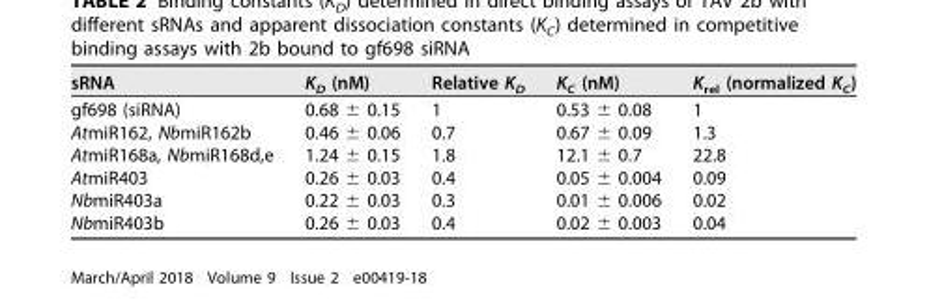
<table><thead><tr><td>sRNA</td><td>K<sub>D</sub> (nM)</td><td>Relative K<sub>D</sub></td><td>K<sub>C</sub> (nM)</td><td>K<sub>rel</sub> (normalized K<sub>C</sub>)</td></tr></thead><tbody><tr><td>gf698 (siRNA)</td><td>0.68 ± 0.15</td><td>1</td><td>0.53 ± 0.08</td><td>1</td></tr><tr><td>AtmiR162, NbmiR162b</td><td>0.46 ± 0.06</td><td>0.7</td><td>0.67 ± 0.09</td><td>1.3</td></tr><tr><td>AtmiR168a, NbmiR168d,e</td><td>1.24 ± 0.15</td><td>1.8</td><td>12.1 ± 0.7</td><td>22.8</td></tr><tr><td>AtmiR403</td><td>0.26 ± 0.03</td><td>0.4</td><td>0.05 ± 0.004</td><td>0.09</td></tr><tr><td>NbmiR403a</td><td>0.22 ± 0.03</td><td>0.3</td><td>0.01 ± 0.006</td><td>0.02</td></tr><tr><td>NbmiR403b</td><td>0.26 ± 0.03</td><td>0.4</td><td>0.02 ± 0.003</td><td>0.04</td></tr></tbody></table>